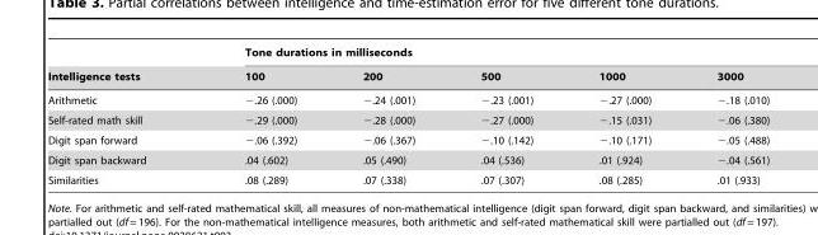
<table><thead><tr><td rowspan="2">Intelligence tests</td><td colspan="5">Tone durations in milliseconds</td></tr><tr><td>100</td><td>200</td><td>500</td><td>1000</td><td>3000</td></tr></thead><tbody><tr><td>Arithmetic</td><td>−.26 (.000)</td><td>−.24 (.001)</td><td>−.23 (.001)</td><td>−.27 (.000)</td><td>−.18 (.010)</td></tr><tr><td>Self-rated math skill</td><td>−.29 (.000)</td><td>−.28 (.000)</td><td>−.27 (.000)</td><td>−.15 (.031)</td><td>−.06 (.380)</td></tr><tr><td>Digit span forward</td><td>−.06 (.392)</td><td>−.06 (.367)</td><td>−.10 (.142)</td><td>−.10 (.171)</td><td>−.05 (.488)</td></tr><tr><td>Digit span backward</td><td>.04 (.602)</td><td>.05 (.490)</td><td>.04 (.536)</td><td>.01 (.924)</td><td>−.04 (.561)</td></tr><tr><td>Similarities</td><td>.08 (.289)</td><td>.07 (.338)</td><td>.07 (.307)</td><td>.08 (.285)</td><td>.01 (.933)</td></tr></tbody></table>